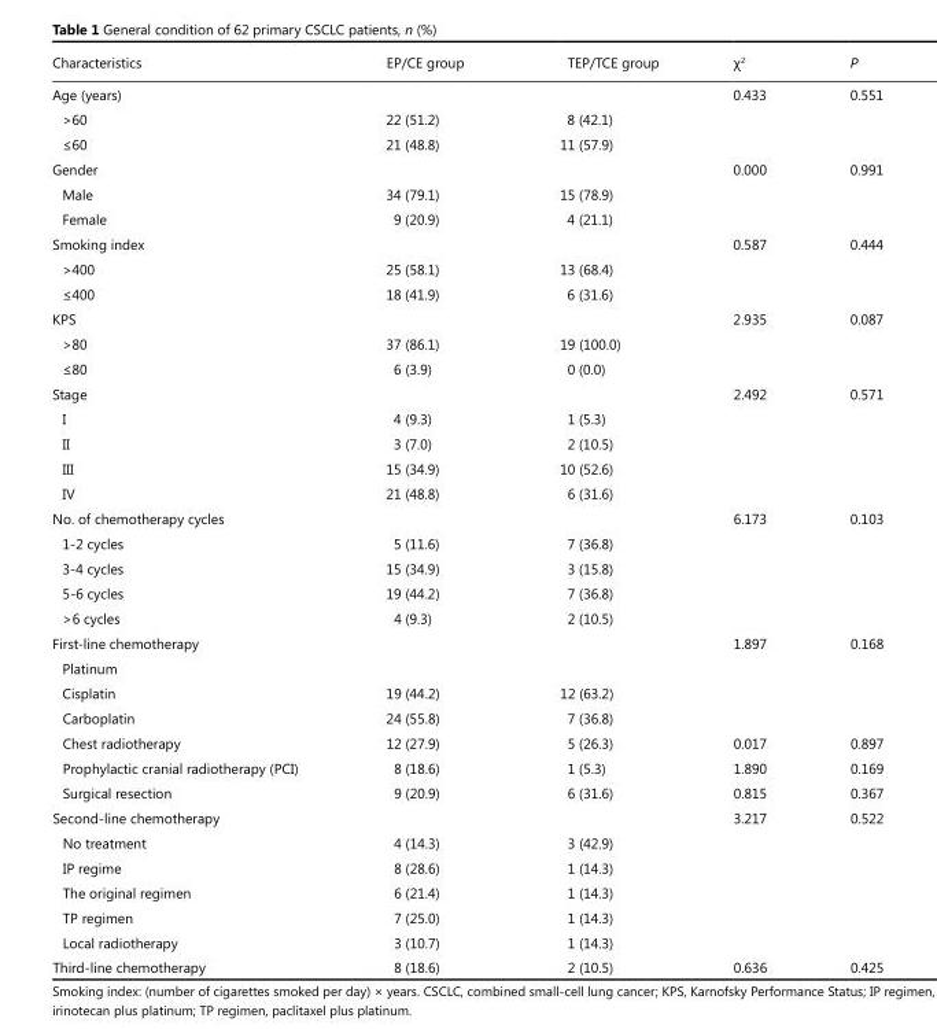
<table><thead><tr><td>Characteristics</td><td>EP/CE group</td><td>TEP/TCE group</td><td>χ<sup>2</sup></td><td>P</td></tr></thead><tbody><tr><td>Age (years)</td><td></td><td></td><td>0.433</td><td>0.551</td></tr><tr><td>&gt;60</td><td>22 (51.2)</td><td>8 (42.1)</td><td></td><td></td></tr><tr><td>≤60</td><td>21 (48.8)</td><td>11 (57.9)</td><td></td><td></td></tr><tr><td>Gender</td><td></td><td></td><td>0.000</td><td>0.991</td></tr><tr><td>Male</td><td>34 (79.1)</td><td>15 (78.9)</td><td></td><td></td></tr><tr><td>Female</td><td>9 (20.9)</td><td>4 (21.1)</td><td></td><td></td></tr><tr><td>Smoking index</td><td></td><td></td><td>0.587</td><td>0.444</td></tr><tr><td>&gt;400</td><td>25 (58.1)</td><td>13 (68.4)</td><td></td><td></td></tr><tr><td>≤400</td><td>18 (41.9)</td><td>6 (31.6)</td><td></td><td></td></tr><tr><td>KPS</td><td></td><td></td><td>2.935</td><td>0.087</td></tr><tr><td>&gt;80</td><td>37 (86.1)</td><td>19 (100.0)</td><td></td><td></td></tr><tr><td>≤80</td><td>6 (3.9)</td><td>0 (0.0)</td><td></td><td></td></tr><tr><td>Stage</td><td></td><td></td><td>2.492</td><td>0.571</td></tr><tr><td>I</td><td>4 (9.3)</td><td>1 (5.3)</td><td></td><td></td></tr><tr><td>II</td><td>3 (7.0)</td><td>2 (10.5)</td><td></td><td></td></tr><tr><td>III</td><td>15 (34.9)</td><td>10 (52.6)</td><td></td><td></td></tr><tr><td>IV</td><td>21 (48.8)</td><td>6 (31.6)</td><td></td><td></td></tr><tr><td>No. of chemotherapy cycles</td><td></td><td></td><td>6.173</td><td>0.103</td></tr><tr><td>1-2 cycles</td><td>5 (11.6)</td><td>7 (36.8)</td><td></td><td></td></tr><tr><td>3-4 cycles</td><td>15 (34.9)</td><td>3 (15.8)</td><td></td><td></td></tr><tr><td>5-6 cycles</td><td>19 (44.2)</td><td>7 (36.8)</td><td></td><td></td></tr><tr><td>&gt;6 cycles</td><td>4 (9.3)</td><td>2 (10.5)</td><td></td><td></td></tr><tr><td>First-line chemotherapy</td><td></td><td></td><td>1.897</td><td>0.168</td></tr><tr><td colspan="5">Platinum</td></tr><tr><td>Cisplatin</td><td>19 (44.2)</td><td>12 (63.2)</td><td></td><td></td></tr><tr><td>Carboplatin</td><td>24 (55.8)</td><td>7 (36.8)</td><td></td><td></td></tr><tr><td>Chest radiotherapy</td><td>12 (27.9)</td><td>5 (26.3)</td><td>0.017</td><td>0.897</td></tr><tr><td>Prophylactic cranial radiotherapy (PCI)</td><td>8 (18.6)</td><td>1 (5.3)</td><td>1.890</td><td>0.169</td></tr><tr><td>Surgical resection</td><td>9 (20.9)</td><td>6 (31.6)</td><td>0.815</td><td>0.367</td></tr><tr><td>Second-line chemotherapy</td><td></td><td></td><td>3.217</td><td>0.522</td></tr><tr><td>No treatment</td><td>4 (14.3)</td><td>3 (42.9)</td><td></td><td></td></tr><tr><td>IP regime</td><td>8 (28.6)</td><td>1 (14.3)</td><td></td><td></td></tr><tr><td>The original regimen</td><td>6 (21.4)</td><td>1 (14.3)</td><td></td><td></td></tr><tr><td>TP regimen</td><td>7 (25.0)</td><td>1 (14.3)</td><td></td><td></td></tr><tr><td>Local radiotherapy</td><td>3 (10.7)</td><td>1 (14.3)</td><td></td><td></td></tr><tr><td>Third-line chemotherapy</td><td>8 (18.6)</td><td>2 (10.5)</td><td>0.636</td><td>0.425</td></tr></tbody></table>